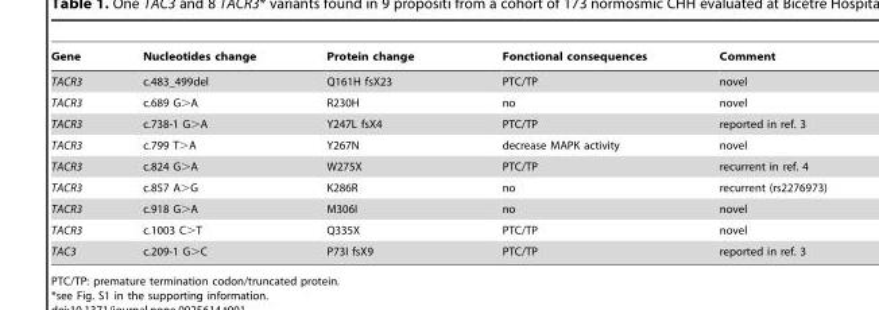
<table><thead><tr><td>Gene</td><td>Nucleotides change</td><td>Protein change</td><td>Fonctional consequences</td><td>Comment</td></tr></thead><tbody><tr><td>TACR3</td><td>c.483_499del</td><td>Q161H fsX23</td><td>PTC/TP</td><td>novel</td></tr><tr><td>TACR3</td><td>c.689 G&gt;A</td><td>R230H</td><td>no</td><td>novel</td></tr><tr><td>TACR3</td><td>c.738-1 G&gt;A</td><td>Y247L fsX4</td><td>PTC/TP</td><td>reported in ref. 3</td></tr><tr><td>TACR3</td><td>c.799 T&gt;A</td><td>Y267N</td><td>decrease MAPK activity</td><td>novel</td></tr><tr><td>TACR3</td><td>c.824 G&gt;A</td><td>W275X</td><td>PTC/TP</td><td>recurrent in ref. 4</td></tr><tr><td>TACR3</td><td>c.857 A&gt;G</td><td>K286R</td><td>no</td><td>recurrent (rs2276973)</td></tr><tr><td>TACR3</td><td>c.918 G&gt;A</td><td>M306I</td><td>no</td><td>novel</td></tr><tr><td>TACR3</td><td>c.1003 C&gt;T</td><td>Q335X</td><td>PTC/TP</td><td>novel</td></tr><tr><td>TAC3</td><td>c.209-1 G&gt;C</td><td>P73I fsX9</td><td>PTC/TP</td><td>reported in ref. 3</td></tr></tbody></table>